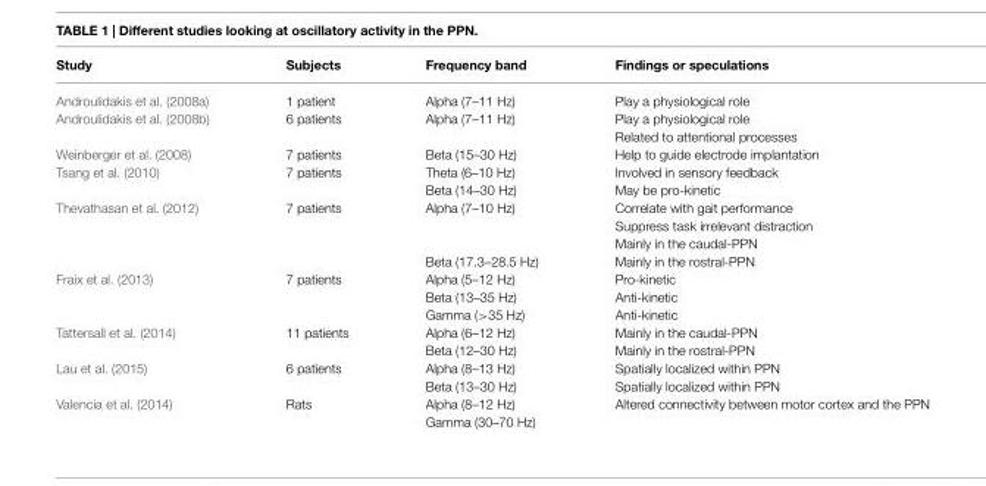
<table><thead><tr><td>Study</td><td>Subjects</td><td>Frequency band</td><td>Findings or speculations</td></tr></thead><tbody><tr><td>Androulidakis et al. (2008a)</td><td>1 patient</td><td>Alpha (7–11 Hz)</td><td>Play a physiological role</td></tr><tr><td rowspan="2">Androulidakis et al. (2008b)</td><td>6 patients</td><td>Alpha (7–11 Hz)</td><td>Play a physiological role</td></tr><tr><td></td><td></td><td>Related to attentional processes</td></tr><tr><td>Weinberger et al. (2008)</td><td>7 patients</td><td>Beta (15–30 Hz)</td><td>Help to guide electrode implantation</td></tr><tr><td rowspan="2">Tsang et al. (2010)</td><td>7 patients</td><td>Theta (6–10 Hz)</td><td>Involved in sensory feedback</td></tr><tr><td></td><td>Beta (14–30 Hz)</td><td>May be pro-kinetic</td></tr><tr><td rowspan="4">Thevathasan et al. (2012)</td><td>7 patients</td><td>Alpha (7–10 Hz)</td><td>Correlate with gait performance</td></tr><tr><td></td><td></td><td>Suppress task irrelevant distraction</td></tr><tr><td></td><td></td><td>Mainly in the caudal-PPN</td></tr><tr><td></td><td>Beta (17.3–28.5 Hz)</td><td>Mainly in the rostral-PPN</td></tr><tr><td rowspan="3">Fraix et al. (2013)</td><td>7 patients</td><td>Alpha (5–12 Hz)</td><td>Pro-kinetic</td></tr><tr><td></td><td>Beta (13–35 Hz)</td><td>Anti-kinetic</td></tr><tr><td></td><td>Gamma (&gt;35 Hz)</td><td>Anti-kinetic</td></tr><tr><td rowspan="2">Tattersall et al. (2014)</td><td>11 patients</td><td>Alpha (6–12 Hz)</td><td>Mainly in the caudal-PPN</td></tr><tr><td></td><td>Beta (12–30 Hz)</td><td>Mainly in the rostral-PPN</td></tr><tr><td rowspan="2">Lau et al. (2015)</td><td>6 patients</td><td>Alpha (8–13 Hz)</td><td>Spatially localized within PPN</td></tr><tr><td></td><td>Beta (13–30 Hz)</td><td>Spatially localized within PPN</td></tr><tr><td rowspan="2">Valencia et al. (2014)</td><td>Rats</td><td>Alpha (8–12 Hz)</td><td>Altered connectivity between motor cortex and the PPN</td></tr><tr><td></td><td>Gamma (30–70 Hz)</td><td></td></tr></tbody></table>